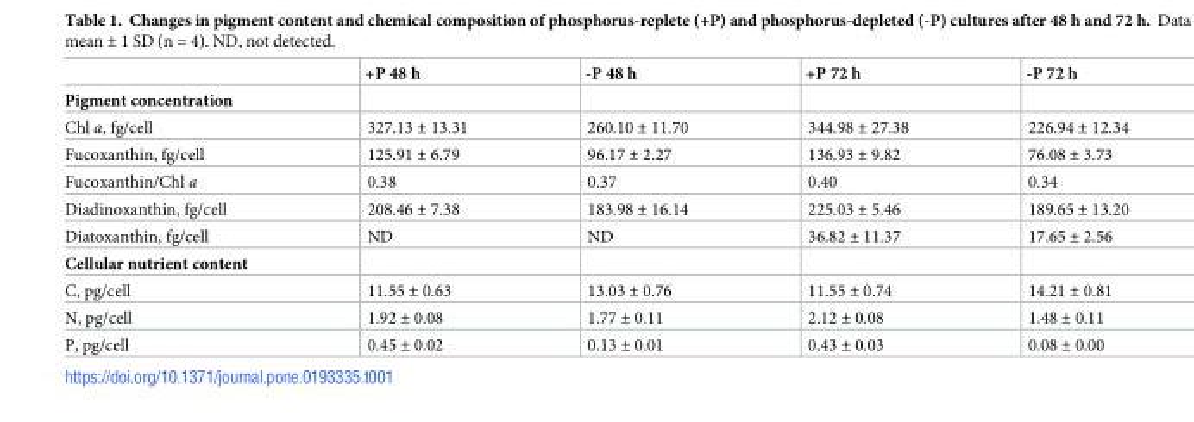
<table><thead><tr><td></td><td>+P 48 h</td><td>-P 48 h</td><td>+P 72 h</td><td>-P 72 h</td></tr></thead><tbody><tr><td colspan="5">Pigment concentration</td></tr><tr><td>Chl a, fg/cell</td><td>327.13 ± 13.31</td><td>260.10 ± 11.70</td><td>344.98 ± 27.38</td><td>226.94 ± 12.34</td></tr><tr><td>Fucoxanthin, fg/cell</td><td>125.91 ± 6.79</td><td>96.17 ± 2.27</td><td>136.93 ± 9.82</td><td>76.08 ± 3.73</td></tr><tr><td>Fucoxanthin/Chl a</td><td>0.38</td><td>0.37</td><td>0.40</td><td>0.34</td></tr><tr><td>Diadinoxanthin, fg/cell</td><td>208.46 ± 7.38</td><td>183.98 ± 16.14</td><td>225.03 ± 5.46</td><td>189.65 ± 13.20</td></tr><tr><td>Diatoxanthin, fg/cell</td><td>ND</td><td>ND</td><td>36.82 ± 11.37</td><td>17.65 ± 2.56</td></tr><tr><td colspan="5">Cellular nutrient content</td></tr><tr><td>C, pg/cell</td><td>11.55 ± 0.63</td><td>13.03 ± 0.76</td><td>11.55 ± 0.74</td><td>14.21 ± 0.81</td></tr><tr><td>N, pg/cell</td><td>1.92 ± 0.08</td><td>1.77 ± 0.11</td><td>2.12 ± 0.08</td><td>1.48 ± 0.11</td></tr><tr><td>P, pg/cell</td><td>0.45 ± 0.02</td><td>0.13 ± 0.01</td><td>0.43 ± 0.03</td><td>0.08 ± 0.00</td></tr></tbody></table>